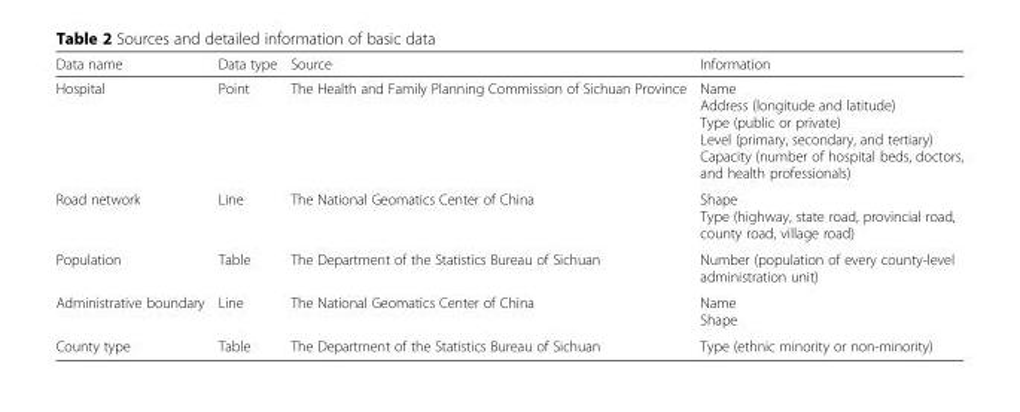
<table><thead><tr><td>Data name</td><td>Data type</td><td>Source</td><td>Information</td></tr></thead><tbody><tr><td>Hospital</td><td>Point</td><td>The Health and Family Planning Commission of Sichuan Province</td><td>Name Address (longitude and latitude) Type (public or private) Level (primary, secondary, and tertiary) Capacity (number of hospital beds, doctors, and health professionals)</td></tr><tr><td>Road network</td><td>Line</td><td>The National Geomatics Center of China</td><td>Shape Type (highway, state road, provincial road, county road, village road)</td></tr><tr><td>Population</td><td>Table</td><td>The Department of the Statistics Bureau of Sichuan</td><td>Number (population of every county-level administration unit)</td></tr><tr><td>Administrative boundary</td><td>Line</td><td>The National Geomatics Center of China</td><td>Name Shape</td></tr><tr><td>County type</td><td>Table</td><td>The Department of the Statistics Bureau of Sichuan</td><td>Type (ethnic minority or non-minority)</td></tr></tbody></table>